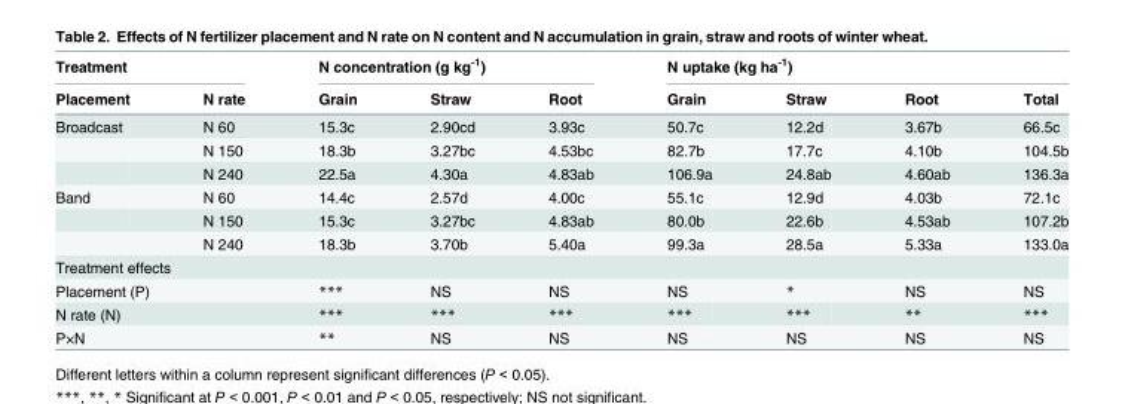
<table><thead><tr><td colspan="2">Treatment</td><td colspan="3">N concentration (g kg<sup>-1</sup>)</td><td colspan="4">N uptake (kg ha<sup>-1</sup>)</td></tr><tr><td>Placement</td><td>N rate</td><td>Grain</td><td>Straw</td><td>Root</td><td>Grain</td><td>Straw</td><td>Root</td><td>Total</td></tr></thead><tbody><tr><td rowspan="3">Broadcast</td><td>N 60</td><td>15.3c</td><td>2.90cd</td><td>3.93c</td><td>50.7c</td><td>12.2d</td><td>3.67b</td><td>66.5c</td></tr><tr><td>N 150</td><td>18.3b</td><td>3.27bc</td><td>4.53bc</td><td>82.7b</td><td>17.7c</td><td>4.10b</td><td>104.5b</td></tr><tr><td>N 240</td><td>22.5a</td><td>4.30a</td><td>4.83ab</td><td>106.9a</td><td>24.8ab</td><td>4.60ab</td><td>136.3a</td></tr><tr><td rowspan="3">Band</td><td>N 60</td><td>14.4c</td><td>2.57d</td><td>4.00c</td><td>55.1c</td><td>12.9d</td><td>4.03b</td><td>72.1c</td></tr><tr><td>N 150</td><td>15.3c</td><td>3.27bc</td><td>4.83ab</td><td>80.0b</td><td>22.6b</td><td>4.53ab</td><td>107.2b</td></tr><tr><td>N 240</td><td>18.3b</td><td>3.70b</td><td>5.40a</td><td>99.3a</td><td>28.5a</td><td>5.33a</td><td>133.0a</td></tr><tr><td colspan="9">Treatment effects</td></tr><tr><td colspan="2">Placement (P)</td><td>***</td><td>NS</td><td>NS</td><td>NS</td><td>*</td><td>NS</td><td>NS</td></tr><tr><td colspan="2">N rate (N)</td><td>***</td><td>***</td><td>***</td><td>***</td><td>***</td><td>**</td><td>***</td></tr><tr><td colspan="2">P×N</td><td>**</td><td>NS</td><td>NS</td><td>NS</td><td>NS</td><td>NS</td><td>NS</td></tr></tbody></table>